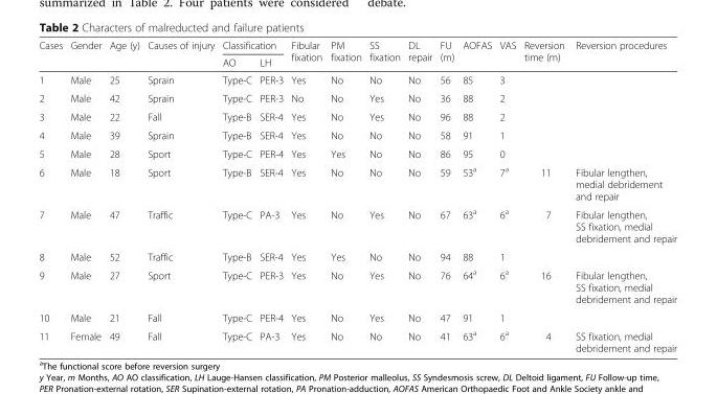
<table><thead><tr><td rowspan="2">Cases</td><td rowspan="2">Gender</td><td rowspan="2">Age (y)</td><td rowspan="2">Causes of injury</td><td colspan="2">Classification</td><td rowspan="2">Fibular fixation</td><td rowspan="2">PM fixation</td><td rowspan="2">SS fixation</td><td rowspan="2">DL repair</td><td rowspan="2">FU (m)</td><td rowspan="2">AOFAS</td><td rowspan="2">VAS</td><td rowspan="2">Reversion time (m)</td><td rowspan="2">Reversion procedures</td></tr><tr><td>AO</td><td>LH</td></tr></thead><tbody><tr><td>1</td><td>Male</td><td>25</td><td>Sprain</td><td>Type-C</td><td>PER-3</td><td>Yes</td><td>No</td><td>No</td><td>No</td><td>56</td><td>85</td><td>3</td><td></td><td></td></tr><tr><td>2</td><td>Male</td><td>42</td><td>Sprain</td><td>Type-C</td><td>PER-3</td><td>No</td><td>No</td><td>Yes</td><td>No</td><td>36</td><td>88</td><td>2</td><td></td><td></td></tr><tr><td>3</td><td>Male</td><td>22</td><td>Fall</td><td>Type-B</td><td>SER-4</td><td>Yes</td><td>No</td><td>Yes</td><td>No</td><td>96</td><td>88</td><td>2</td><td></td><td></td></tr><tr><td>4</td><td>Male</td><td>39</td><td>Sprain</td><td>Type-B</td><td>SER-4</td><td>Yes</td><td>No</td><td>No</td><td>No</td><td>58</td><td>91</td><td>1</td><td></td><td></td></tr><tr><td>5</td><td>Male</td><td>28</td><td>Sport</td><td>Type-C</td><td>PER-4</td><td>Yes</td><td>Yes</td><td>No</td><td>No</td><td>86</td><td>95</td><td>0</td><td></td><td></td></tr><tr><td>6</td><td>Male</td><td>18</td><td>Sport</td><td>Type-B</td><td>SER-4</td><td>Yes</td><td>No</td><td>No</td><td>No</td><td>59</td><td>53<sup>a</sup></td><td>7<sup>a</sup></td><td>11</td><td>Fibular lengthen, medial debridement and repair</td></tr><tr><td>7</td><td>Male</td><td>47</td><td>Traffic</td><td>Type-C</td><td>PA-3</td><td>Yes</td><td>No</td><td>Yes</td><td>No</td><td>67</td><td>63<sup>a</sup></td><td>6<sup>a</sup></td><td>7</td><td>Fibular lengthen, SS fixation, medial debridement and repair</td></tr><tr><td>8</td><td>Male</td><td>52</td><td>Traffic</td><td>Type-B</td><td>SER-4</td><td>Yes</td><td>Yes</td><td>No</td><td>No</td><td>94</td><td>88</td><td>1</td><td></td><td></td></tr><tr><td>9</td><td>Male</td><td>27</td><td>Sport</td><td>Type-C</td><td>PER-3</td><td>Yes</td><td>No</td><td>Yes</td><td>No</td><td>76</td><td>64<sup>a</sup></td><td>6<sup>a</sup></td><td>16</td><td>Fibular lengthen, SS fixation, medial debridement and repair</td></tr><tr><td>10</td><td>Male</td><td>21</td><td>Fall</td><td>Type-C</td><td>PER-4</td><td>Yes</td><td>No</td><td>Yes</td><td>No</td><td>47</td><td>91</td><td>1</td><td></td><td></td></tr><tr><td>11</td><td>Female</td><td>49</td><td>Fall</td><td>Type-C</td><td>PA-3</td><td>Yes</td><td>No</td><td>No</td><td>No</td><td>41</td><td>63<sup>a</sup></td><td>6<sup>a</sup></td><td>4</td><td>SS fixation, medial debridement and repair</td></tr></tbody></table>